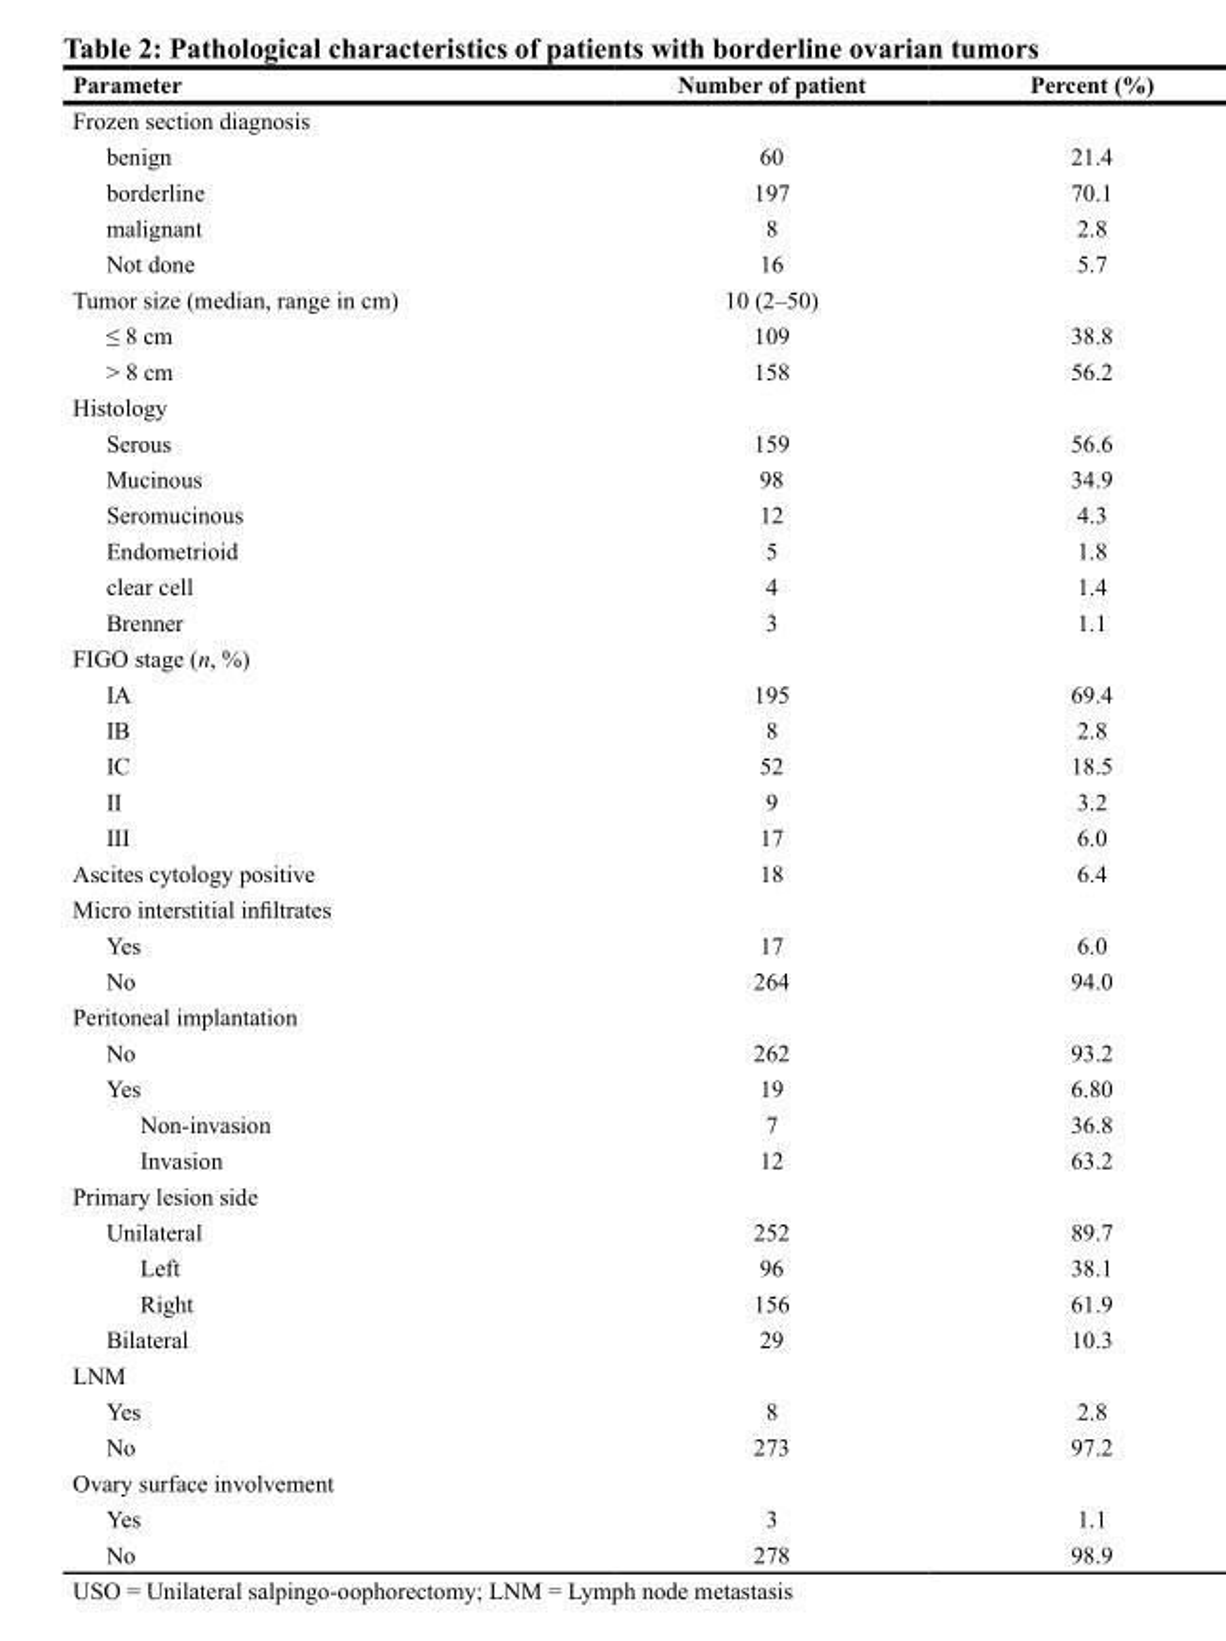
<table><thead><tr><td>Parameter</td><td>Number of patient</td><td>Percent (%)</td></tr></thead><tbody><tr><td colspan="3">Frozen section diagnosis</td></tr><tr><td>benign</td><td>60</td><td>21.4</td></tr><tr><td>borderline</td><td>197</td><td>70.1</td></tr><tr><td>malignant</td><td>8</td><td>2.8</td></tr><tr><td>Not done</td><td>16</td><td>5.7</td></tr><tr><td>Tumor size (median, range in cm)</td><td>10 (2–50)</td><td></td></tr><tr><td>≤ 8 cm</td><td>109</td><td>38.8</td></tr><tr><td>&gt; 8 cm</td><td>158</td><td>56.2</td></tr><tr><td colspan="3">Histology</td></tr><tr><td>Serous</td><td>159</td><td>56.6</td></tr><tr><td>Mucinous</td><td>98</td><td>34.9</td></tr><tr><td>Seromucinous</td><td>12</td><td>4.3</td></tr><tr><td>Endometrioid</td><td>5</td><td>1.8</td></tr><tr><td>clear cell</td><td>4</td><td>1.4</td></tr><tr><td>Brenner</td><td>3</td><td>1.1</td></tr><tr><td colspan="3">FIGO stage (n, %)</td></tr><tr><td>IA</td><td>195</td><td>69.4</td></tr><tr><td>IB</td><td>8</td><td>2.8</td></tr><tr><td>IC</td><td>52</td><td>18.5</td></tr><tr><td>II</td><td>9</td><td>3.2</td></tr><tr><td>III</td><td>17</td><td>6.0</td></tr><tr><td>Ascites cytology positive</td><td>18</td><td>6.4</td></tr><tr><td colspan="3">Micro interstitial infiltrates</td></tr><tr><td>Yes</td><td>17</td><td>6.0</td></tr><tr><td>No</td><td>264</td><td>94.0</td></tr><tr><td colspan="3">Peritoneal implantation</td></tr><tr><td>No</td><td>262</td><td>93.2</td></tr><tr><td>Yes</td><td>19</td><td>6.80</td></tr><tr><td>Non-invasion</td><td>7</td><td>36.8</td></tr><tr><td>Invasion</td><td>12</td><td>63.2</td></tr><tr><td colspan="3">Primary lesion side</td></tr><tr><td>Unilateral</td><td>252</td><td>89.7</td></tr><tr><td>Left</td><td>96</td><td>38.1</td></tr><tr><td>Right</td><td>156</td><td>61.9</td></tr><tr><td>Bilateral</td><td>29</td><td>10.3</td></tr><tr><td colspan="3">LNM</td></tr><tr><td>Yes</td><td>8</td><td>2.8</td></tr><tr><td>No</td><td>273</td><td>97.2</td></tr><tr><td colspan="3">Ovary surface involvement</td></tr><tr><td>Yes</td><td>3</td><td>1.1</td></tr><tr><td>No</td><td>278</td><td>98.9</td></tr></tbody></table>